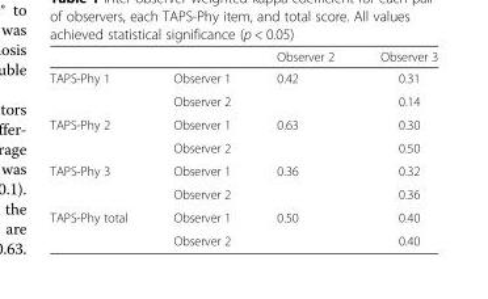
<table><thead><tr><td></td><td></td><td>Observer 2</td><td>Observer 3</td></tr></thead><tbody><tr><td rowspan="2">TAPS-Phy 1</td><td>Observer 1</td><td>0.42</td><td>0.31</td></tr><tr><td>Observer 2</td><td></td><td>0.14</td></tr><tr><td rowspan="2">TAPS-Phy 2</td><td>Observer 1</td><td>0.63</td><td>0.30</td></tr><tr><td>Observer 2</td><td></td><td>0.50</td></tr><tr><td rowspan="2">TAPS-Phy 3</td><td>Observer 1</td><td>0.36</td><td>0.32</td></tr><tr><td>Observer 2</td><td></td><td>0.36</td></tr><tr><td rowspan="2">TAPS-Phy total</td><td>Observer 1</td><td>0.50</td><td>0.40</td></tr><tr><td>Observer 2</td><td></td><td>0.40</td></tr></tbody></table>